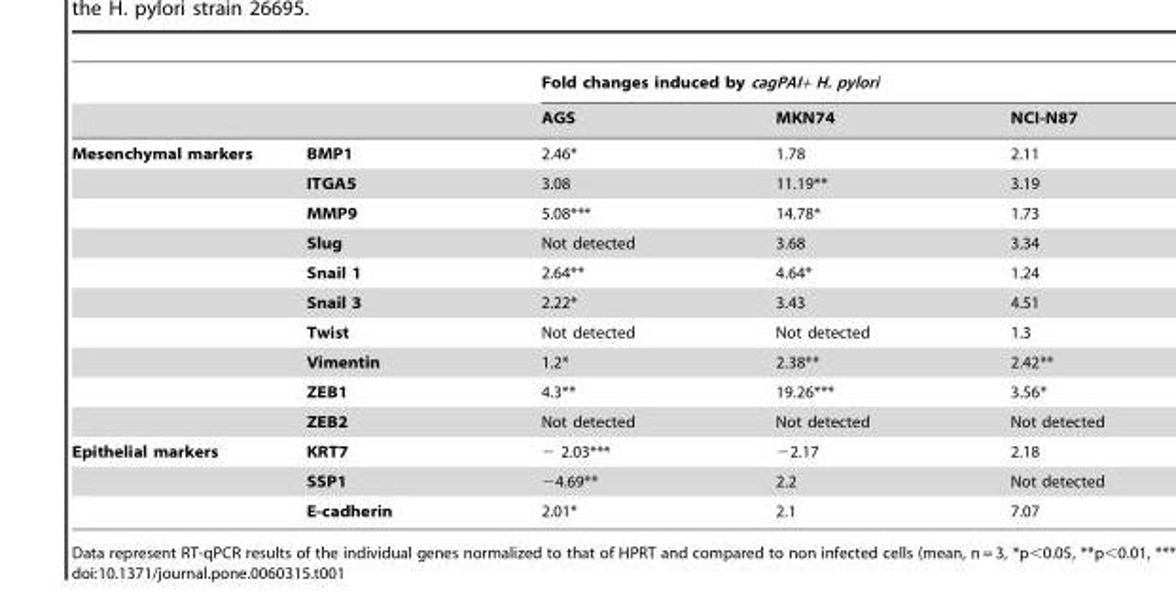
<table><thead><tr><td rowspan="2"></td><td rowspan="2"></td><td colspan="3">Fold changes induced by cagPAI+ H. pylori</td></tr><tr><td>AGS</td><td>MKN74</td><td>NCI-N87</td></tr></thead><tbody><tr><td rowspan="10">Mesenchymal markers</td><td>BMP1</td><td>2.46*</td><td>1.78</td><td>2.11</td></tr><tr><td>ITGA5</td><td>3.08</td><td>11.19**</td><td>3.19</td></tr><tr><td>MMP9</td><td>5.08***</td><td>14.78*</td><td>1.73</td></tr><tr><td>Slug</td><td>Not detected</td><td>3.68</td><td>3.34</td></tr><tr><td>Snail 1</td><td>2.64**</td><td>4.64*</td><td>1.24</td></tr><tr><td>Snail 3</td><td>2.22*</td><td>3.43</td><td>4.51</td></tr><tr><td>Twist</td><td>Not detected</td><td>Not detected</td><td>1.3</td></tr><tr><td>Vimentin</td><td>1.2*</td><td>2.38**</td><td>2.42**</td></tr><tr><td>ZEB1</td><td>4.3**</td><td>19.26***</td><td>3.56*</td></tr><tr><td>ZEB2</td><td>Not detected</td><td>Not detected</td><td>Not detected</td></tr><tr><td rowspan="3">Epithelial markers</td><td>KRT7</td><td>− 2.03***</td><td>−2.17</td><td>2.18</td></tr><tr><td>SSP1</td><td>−4.69**</td><td>2.2</td><td>Not detected</td></tr><tr><td>E-cadherin</td><td>2.01*</td><td>2.1</td><td>7.07</td></tr></tbody></table>